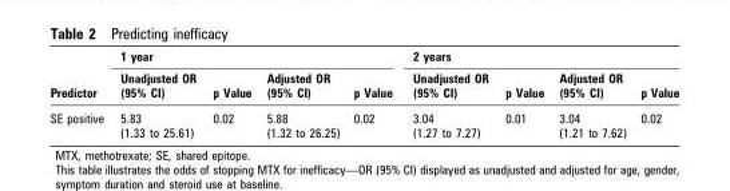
<table><thead><tr><td rowspan="2">Predictor</td><td colspan="4">1 year</td><td colspan="4">2 years</td></tr><tr><td>Unadjusted OR (95% CI)</td><td>p Value</td><td>Adjusted OR (95% CI)</td><td>p Value</td><td>Unadjusted OR (95% CI)</td><td>p Value</td><td>Adjusted OR (95% CI)</td><td>p Value</td></tr></thead><tbody><tr><td>SE positive</td><td>5.83 (1.33 to 25.61)</td><td>0.02</td><td>5.88 (1.32 to 26.25)</td><td>0.02</td><td>3.04 (1.27 to 7.27)</td><td>0.01</td><td>3.04 (1.21 to 7.62)</td><td>0.02</td></tr></tbody></table>